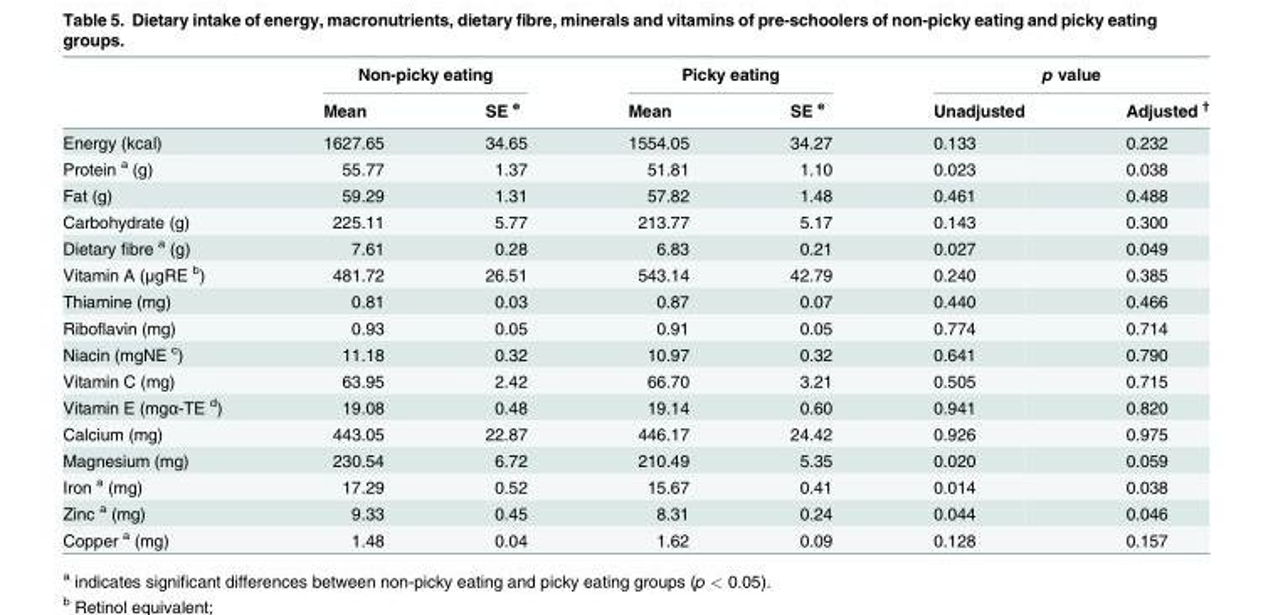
<table><thead><tr><td rowspan="2"></td><td colspan="2">Non-picky eating</td><td colspan="2">Picky eating</td><td colspan="2">p value</td></tr><tr><td>Mean</td><td>SE <sup>e</sup></td><td>Mean</td><td>SE <sup>e</sup></td><td>Unadjusted</td><td>Adjusted <sup>†</sup></td></tr></thead><tbody><tr><td>Energy (kcal)</td><td>1627.65</td><td>34.65</td><td>1554.05</td><td>34.27</td><td>0.133</td><td>0.232</td></tr><tr><td>Protein <sup>a</sup> (g)</td><td>55.77</td><td>1.37</td><td>51.81</td><td>1.10</td><td>0.023</td><td>0.038</td></tr><tr><td>Fat (g)</td><td>59.29</td><td>1.31</td><td>57.82</td><td>1.48</td><td>0.461</td><td>0.488</td></tr><tr><td>Carbohydrate (g)</td><td>225.11</td><td>5.77</td><td>213.77</td><td>5.17</td><td>0.143</td><td>0.300</td></tr><tr><td>Dietary fibre <sup>a</sup> (g)</td><td>7.61</td><td>0.28</td><td>6.83</td><td>0.21</td><td>0.027</td><td>0.049</td></tr><tr><td>Vitamin A (μgRE <sup>b</sup>)</td><td>481.72</td><td>26.51</td><td>543.14</td><td>42.79</td><td>0.240</td><td>0.385</td></tr><tr><td>Thiamine (mg)</td><td>0.81</td><td>0.03</td><td>0.87</td><td>0.07</td><td>0.440</td><td>0.466</td></tr><tr><td>Riboflavin (mg)</td><td>0.93</td><td>0.05</td><td>0.91</td><td>0.05</td><td>0.774</td><td>0.714</td></tr><tr><td>Niacin (mgNE <sup>c</sup>)</td><td>11.18</td><td>0.32</td><td>10.97</td><td>0.32</td><td>0.641</td><td>0.790</td></tr><tr><td>Vitamin C (mg)</td><td>63.95</td><td>2.42</td><td>66.70</td><td>3.21</td><td>0.505</td><td>0.715</td></tr><tr><td>Vitamin E (mgα-TE <sup>d</sup>)</td><td>19.08</td><td>0.48</td><td>19.14</td><td>0.60</td><td>0.941</td><td>0.820</td></tr><tr><td>Calcium (mg)</td><td>443.05</td><td>22.87</td><td>446.17</td><td>24.42</td><td>0.926</td><td>0.975</td></tr><tr><td>Magnesium (mg)</td><td>230.54</td><td>6.72</td><td>210.49</td><td>5.35</td><td>0.020</td><td>0.059</td></tr><tr><td>Iron <sup>a</sup> (mg)</td><td>17.29</td><td>0.52</td><td>15.67</td><td>0.41</td><td>0.014</td><td>0.038</td></tr><tr><td>Zinc <sup>a</sup> (mg)</td><td>9.33</td><td>0.45</td><td>8.31</td><td>0.24</td><td>0.044</td><td>0.046</td></tr><tr><td>Copper <sup>a</sup> (mg)</td><td>1.48</td><td>0.04</td><td>1.62</td><td>0.09</td><td>0.128</td><td>0.157</td></tr></tbody></table>